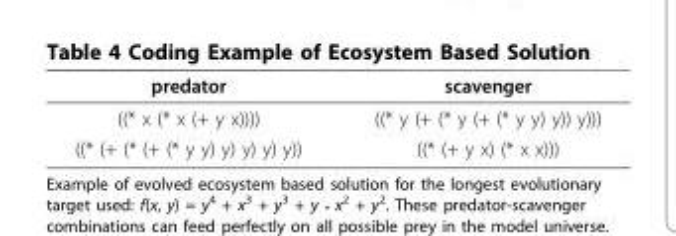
<table><thead><tr><td>predator</td><td>scavenger</td></tr></thead><tbody><tr><td>((* x (* x (+ y x))))</td><td>((* y (+ (* y (+ (* y y) y)) y)))</td></tr><tr><td>((* (+ (* (+ (* y y) y) y) y) y))</td><td>((* (+ y x) (* x x)))</td></tr></tbody></table>